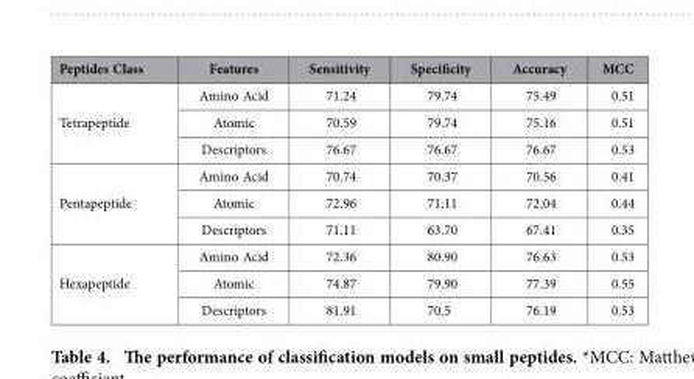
<table><thead><tr><td>Peptides Class</td><td>Features</td><td>Sensitivity</td><td>Specificity</td><td>Accuracy</td><td>MCC</td></tr></thead><tbody><tr><td rowspan="3">Tetrapeptide</td><td>Amino Acid</td><td>71.24</td><td>79.74</td><td>75.49</td><td>0.51</td></tr><tr><td>Atomic</td><td>70.59</td><td>79.74</td><td>75.16</td><td>0.51</td></tr><tr><td>Descriptors</td><td>76.67</td><td>76.67</td><td>76.67</td><td>0.53</td></tr><tr><td rowspan="3">Pentapeptide</td><td>Amino Acid</td><td>70.74</td><td>70.37</td><td>70.56</td><td>0.41</td></tr><tr><td>Atomic</td><td>72.96</td><td>71.11</td><td>72.04</td><td>0.44</td></tr><tr><td>Descriptors</td><td>71.11</td><td>63.70</td><td>67.41</td><td>0.35</td></tr><tr><td rowspan="3">Hexapeptide</td><td>Amino Acid</td><td>72.36</td><td>80.90</td><td>76.63</td><td>0.53</td></tr><tr><td>Atomic</td><td>74.87</td><td>79.90</td><td>77.39</td><td>0.55</td></tr><tr><td>Descriptors</td><td>81.91</td><td>70.5</td><td>76.19</td><td>0.53</td></tr></tbody></table>